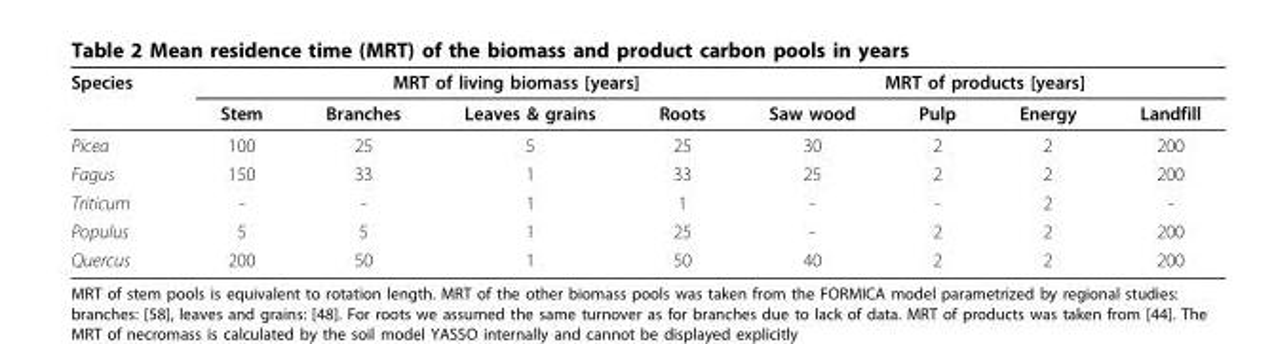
<table><thead><tr><td rowspan="2">Species</td><td rowspan="2">Stem</td><td colspan="3">MRT of living biomass [years]</td><td colspan="4">MRT of products [years]</td></tr><tr><td>Branches</td><td>Leaves &amp; grains</td><td>Roots</td><td>Saw wood</td><td>Pulp</td><td>Energy</td><td>Landfill</td></tr></thead><tbody><tr><td>Picea</td><td>100</td><td>25</td><td>5</td><td>25</td><td>30</td><td>2</td><td>2</td><td>200</td></tr><tr><td>Fagus</td><td>150</td><td>33</td><td>1</td><td>33</td><td>25</td><td>2</td><td>2</td><td>200</td></tr><tr><td>Triticum</td><td>-</td><td>-</td><td>1</td><td>1</td><td>-</td><td>-</td><td>2</td><td>-</td></tr><tr><td>Populus</td><td>5</td><td>5</td><td>1</td><td>25</td><td>-</td><td>2</td><td>2</td><td>200</td></tr><tr><td>Quercus</td><td>200</td><td>50</td><td>1</td><td>50</td><td>40</td><td>2</td><td>2</td><td>200</td></tr></tbody></table>